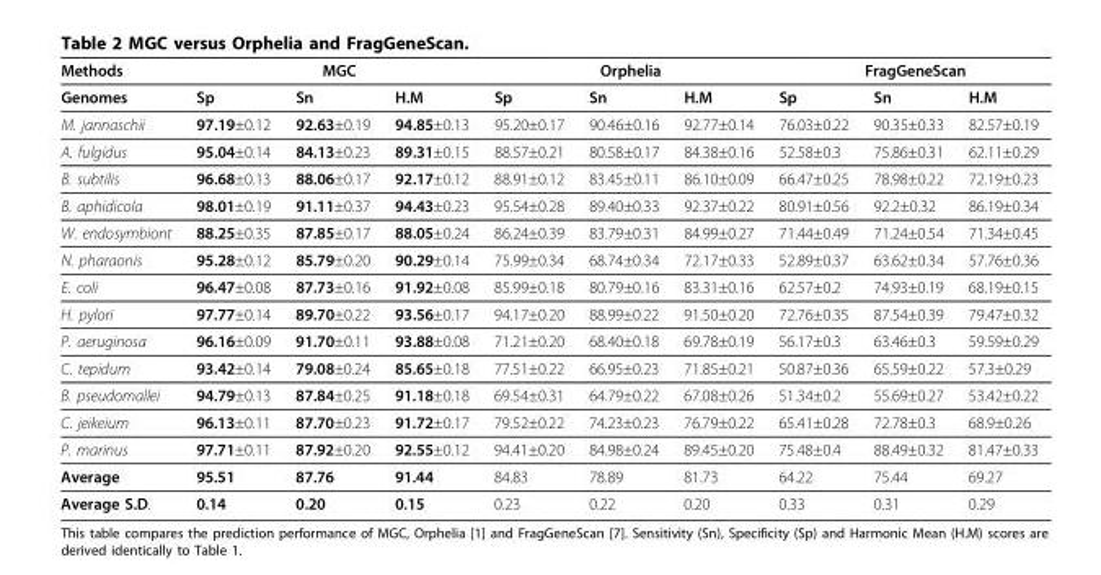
<table><thead><tr><td rowspan="2">Methods Genomes</td><td colspan="3">MGC</td><td colspan="3">Orphelia</td><td colspan="3">FragGeneScan</td></tr><tr><td>Sp</td><td>Sn</td><td>H.M</td><td>Sp</td><td>Sn</td><td>H.M</td><td>Sp</td><td>Sn</td><td>H.M</td></tr></thead><tbody><tr><td>M. jannaschii</td><td>97.19±0.12</td><td>92.63±0.19</td><td>94.85±0.13</td><td>95.20±0.17</td><td>90.46±0.16</td><td>92.77±0.14</td><td>76.03±0.22</td><td>90.35±0.33</td><td>82.57±0.19</td></tr><tr><td>A. fulgidus</td><td>95.04±0.14</td><td>84.13±0.23</td><td>89.31±0.15</td><td>88.57±0.21</td><td>80.58±0.17</td><td>84.38±0.16</td><td>52.58±0.3</td><td>75.86±0.31</td><td>62.11±0.29</td></tr><tr><td>B. subtilis</td><td>96.68±0.13</td><td>88.06±0.17</td><td>92.17±0.12</td><td>88.91±0.12</td><td>83.45±0.11</td><td>86.10±0.09</td><td>66.47±0.25</td><td>78.98±0.22</td><td>72.19±0.23</td></tr><tr><td>B. aphidicola</td><td>98.01±0.19</td><td>91.11±0.37</td><td>94.43±0.23</td><td>95.54±0.28</td><td>89.40±0.33</td><td>92.37±0.22</td><td>80.91±0.56</td><td>92.2±0.32</td><td>86.19±0.34</td></tr><tr><td>W. endosymbiont</td><td>88.25±0.35</td><td>87.85±0.17</td><td>88.05±0.24</td><td>86.24±0.39</td><td>83.79±0.31</td><td>84.99±0.27</td><td>71.44±0.49</td><td>71.24±0.54</td><td>71.34±0.45</td></tr><tr><td>N. pharaonis</td><td>95.28±0.12</td><td>85.79±0.20</td><td>90.29±0.14</td><td>75.99±0.34</td><td>68.74±0.34</td><td>72.17±0.33</td><td>52.89±0.37</td><td>63.62±0.34</td><td>57.76±0.36</td></tr><tr><td>E. coli</td><td>96.47±0.08</td><td>87.73±0.16</td><td>91.92±0.08</td><td>85.99±0.18</td><td>80.79±0.16</td><td>83.31±0.16</td><td>62.57±0.2</td><td>74.93±0.19</td><td>68.19±0.15</td></tr><tr><td>H. pylori</td><td>97.77±0.14</td><td>89.70±0.22</td><td>93.56±0.17</td><td>94.17±0.20</td><td>88.99±0.22</td><td>91.50±0.20</td><td>72.76±0.35</td><td>87.54±0.39</td><td>79.47±0.32</td></tr><tr><td>P. aeruginosa</td><td>96.16±0.09</td><td>91.70±0.11</td><td>93.88±0.08</td><td>71.21±0.20</td><td>68.40±0.18</td><td>69.78±0.19</td><td>56.17±0.3</td><td>63.46±0.3</td><td>59.59±0.29</td></tr><tr><td>C. tepidum</td><td>93.42±0.14</td><td>79.08±0.24</td><td>85.65±0.18</td><td>77.51±0.22</td><td>66.95±0.23</td><td>71.85±0.21</td><td>50.87±0.36</td><td>65.59±0.22</td><td>57.3±0.29</td></tr><tr><td>B. pseudomallei</td><td>94.79±0.13</td><td>87.84±0.25</td><td>91.18±0.18</td><td>69.54±0.31</td><td>64.79±0.22</td><td>67.08±0.26</td><td>51.34±0.2</td><td>55.69±0.27</td><td>53.42±0.22</td></tr><tr><td>C. jeikeium</td><td>96.13±0.11</td><td>87.70±0.23</td><td>91.72±0.17</td><td>79.52±0.22</td><td>74.23±0.23</td><td>76.79±0.22</td><td>65.41±0.28</td><td>72.78±0.3</td><td>68.9±0.26</td></tr><tr><td>P. marinus</td><td>97.71±0.11</td><td>87.92±0.20</td><td>92.55±0.12</td><td>94.41±0.20</td><td>84.98±0.24</td><td>89.45±0.20</td><td>75.48±0.4</td><td>88.49±0.32</td><td>81.47±0.33</td></tr><tr><td>Average</td><td>95.51</td><td>87.76</td><td>91.44</td><td>84.83</td><td>78.89</td><td>81.73</td><td>64.22</td><td>75.44</td><td>69.27</td></tr><tr><td>Average S.D.</td><td>0.14</td><td>0.20</td><td>0.15</td><td>0.23</td><td>0.22</td><td>0.20</td><td>0.33</td><td>0.31</td><td>0.29</td></tr></tbody></table>